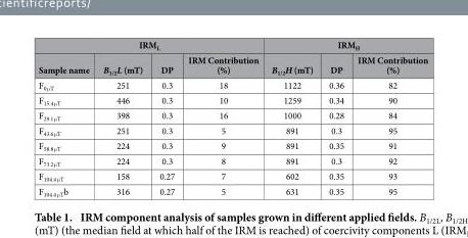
<table><thead><tr><td colspan="4">IRM<sub>L</sub></td><td colspan="3">IRM<sub>H</sub></td></tr><tr><td>Sample name</td><td>B<sub>1/2</sub>L (mT)</td><td>DP</td><td>IRM Contribution (%)</td><td>B<sub>1/2</sub>H (mT)</td><td>DP</td><td>IRM Contribution (%)</td></tr></thead><tbody><tr><td>F<sub>0 μT</sub></td><td>251</td><td>0.3</td><td>18</td><td>1122</td><td>0.36</td><td>82</td></tr><tr><td>F<sub>15.4 μT</sub></td><td>446</td><td>0.3</td><td>10</td><td>1259</td><td>0.34</td><td>90</td></tr><tr><td>F<sub>29.1 μT</sub></td><td>398</td><td>0.3</td><td>16</td><td>1000</td><td>0.28</td><td>84</td></tr><tr><td>F<sub>43.6 μT</sub></td><td>251</td><td>0.3</td><td>5</td><td>891</td><td>0.3</td><td>95</td></tr><tr><td>F<sub>58.8 μT</sub></td><td>224</td><td>0.3</td><td>9</td><td>891</td><td>0.35</td><td>91</td></tr><tr><td>F<sub>73.2 μT</sub></td><td>224</td><td>0.3</td><td>8</td><td>891</td><td>0.3</td><td>92</td></tr><tr><td>F<sub>104.4 μT</sub></td><td>158</td><td>0.27</td><td>7</td><td>602</td><td>0.35</td><td>93</td></tr><tr><td>F<sub>104.4 μT</sub>b</td><td>316</td><td>0.27</td><td>5</td><td>631</td><td>0.35</td><td>95</td></tr></tbody></table>